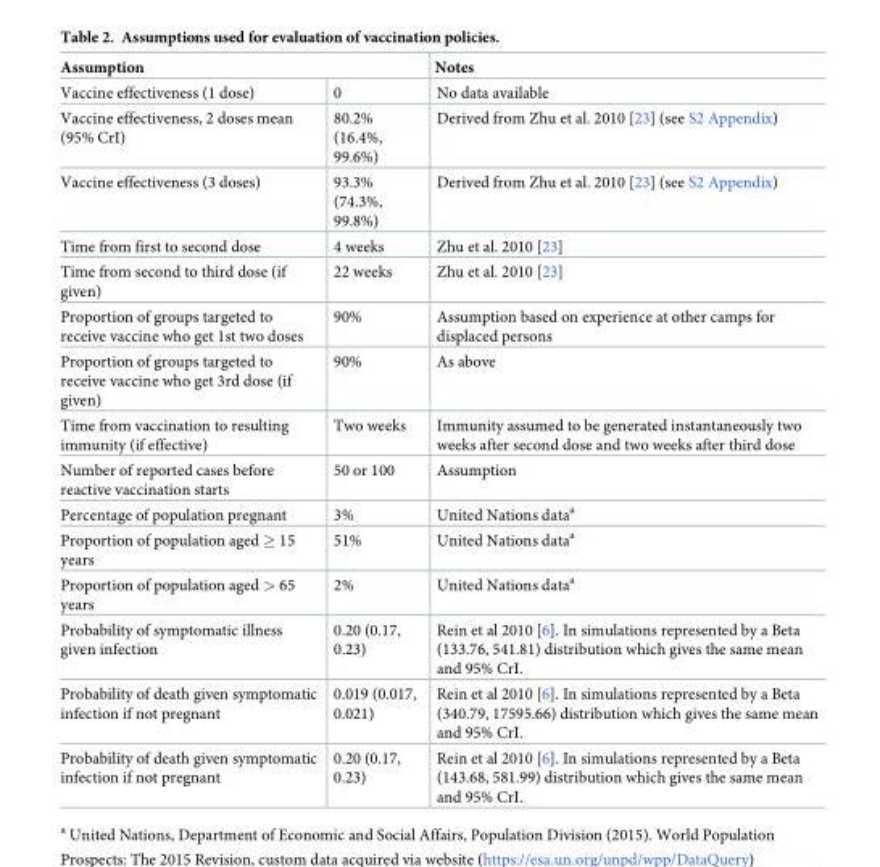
<table><thead><tr><td colspan="2">Assumption</td><td rowspan="2">Notes No data available</td></tr><tr><td>Vaccine effectiveness (1 dose)</td><td>0</td></tr></thead><tbody><tr><td>Vaccine effectiveness, 2 doses mean (95% CrI)</td><td>80.2% (16.4%, 99.6%)</td><td>Derived from Zhu et al. 2010 [23] (see S2 Appendix)</td></tr><tr><td>Vaccine effectiveness (3 doses)</td><td>93.3% (74.3%, 99.8%)</td><td>Derived from Zhu et al. 2010 [23] (see S2 Appendix)</td></tr><tr><td>Time from first to second dose</td><td>4 weeks</td><td>Zhu et al. 2010 [23]</td></tr><tr><td>Time from second to third dose (if given)</td><td>22 weeks</td><td>Zhu et al. 2010 [23]</td></tr><tr><td>Proportion of groups targeted to receive vaccine who get 1st two doses</td><td>90%</td><td>Assumption based on experience at other camps for displaced persons</td></tr><tr><td>Proportion of groups targeted to receive vaccine who get 3rd dose (if given)</td><td>90%</td><td>As above</td></tr><tr><td>Time from vaccination to resulting immunity (if effective)</td><td>Two weeks</td><td>Immunity assumed to be generated instantaneously two weeks after second dose and two weeks after third dose</td></tr><tr><td>Number of reported cases before reactive vaccination starts</td><td>50 or 100</td><td>Assumption</td></tr><tr><td>Percentage of population pregnant</td><td>3%</td><td>United Nations data<sup>a</sup></td></tr><tr><td>Proportion of population aged ≥ 15 years</td><td>51%</td><td>United Nations data<sup>a</sup></td></tr><tr><td>Proportion of population aged &gt; 65 years</td><td>2%</td><td>United Nations data<sup>a</sup></td></tr><tr><td>Probability of symptomatic illness given infection</td><td>0.20 (0.17, 0.23)</td><td>Rein et al 2010 [6]. In simulations represented by a Beta (133.76, 541.81) distribution which gives the same mean and 95% CrI.</td></tr><tr><td>Probability of death given symptomatic infection if not pregnant</td><td>0.019 (0.017, 0.021)</td><td>Rein et al 2010 [6]. In simulations represented by a Beta (340.79, 17595.66) distribution which gives the same mean and 95% CrI.</td></tr><tr><td>Probability of death given symptomatic infection if not pregnant</td><td>0.20 (0.17, 0.23)</td><td>Rein et al 2010 [6]. In simulations represented by a Beta (143.68, 581.99) distribution which gives the same mean and 95% CrI.</td></tr></tbody></table>